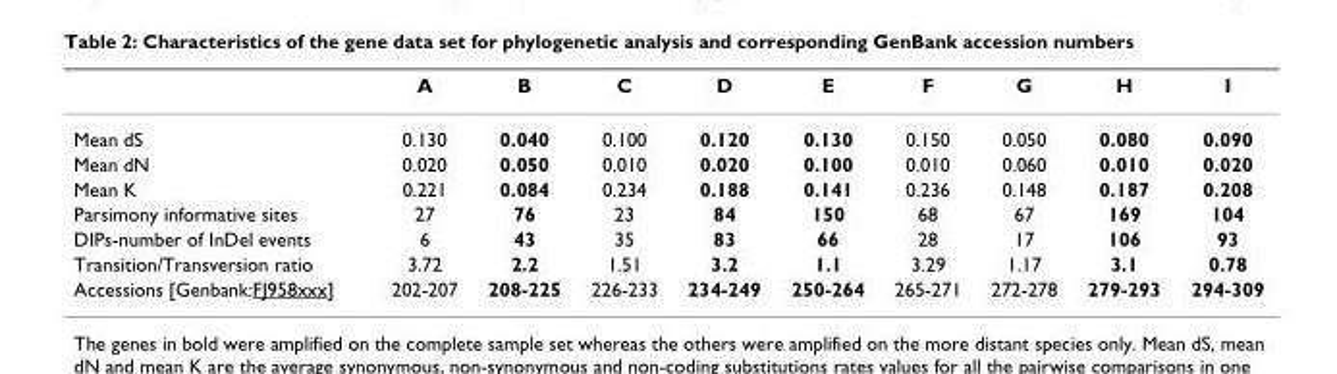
<table><thead><tr><td></td><td>A</td><td>B</td><td>C</td><td>D</td><td>E</td><td>F</td><td>G</td><td>H</td><td>I</td></tr></thead><tbody><tr><td>Mean dS</td><td>0.130</td><td>0.040</td><td>0.100</td><td>0.120</td><td>0.130</td><td>0.150</td><td>0.050</td><td>0.080</td><td>0.090</td></tr><tr><td>Mean dN</td><td>0.020</td><td>0.050</td><td>0.010</td><td>0.020</td><td>0.100</td><td>0.010</td><td>0.060</td><td>0.010</td><td>0.020</td></tr><tr><td>Mean K</td><td>0.221</td><td>0.084</td><td>0.234</td><td>0.188</td><td>0.141</td><td>0.236</td><td>0.148</td><td>0.187</td><td>0.208</td></tr><tr><td>Parsimony informative sites</td><td>27</td><td>76</td><td>23</td><td>84</td><td>150</td><td>68</td><td>67</td><td>169</td><td>104</td></tr><tr><td>DIPs-number of InDel events</td><td>6</td><td>43</td><td>35</td><td>83</td><td>66</td><td>28</td><td>17</td><td>106</td><td>93</td></tr><tr><td>Transition/Transversion ratio</td><td>3.72</td><td>2.2</td><td>1.51</td><td>3.2</td><td>1.1</td><td>3.29</td><td>1.17</td><td>3.1</td><td>0.78</td></tr><tr><td>Accessions [Genbank:FJ958xxx]</td><td>202-207</td><td>208-225</td><td>226-233</td><td>234-249</td><td>250-264</td><td>265-271</td><td>272-278</td><td>279-293</td><td>294-309</td></tr></tbody></table>